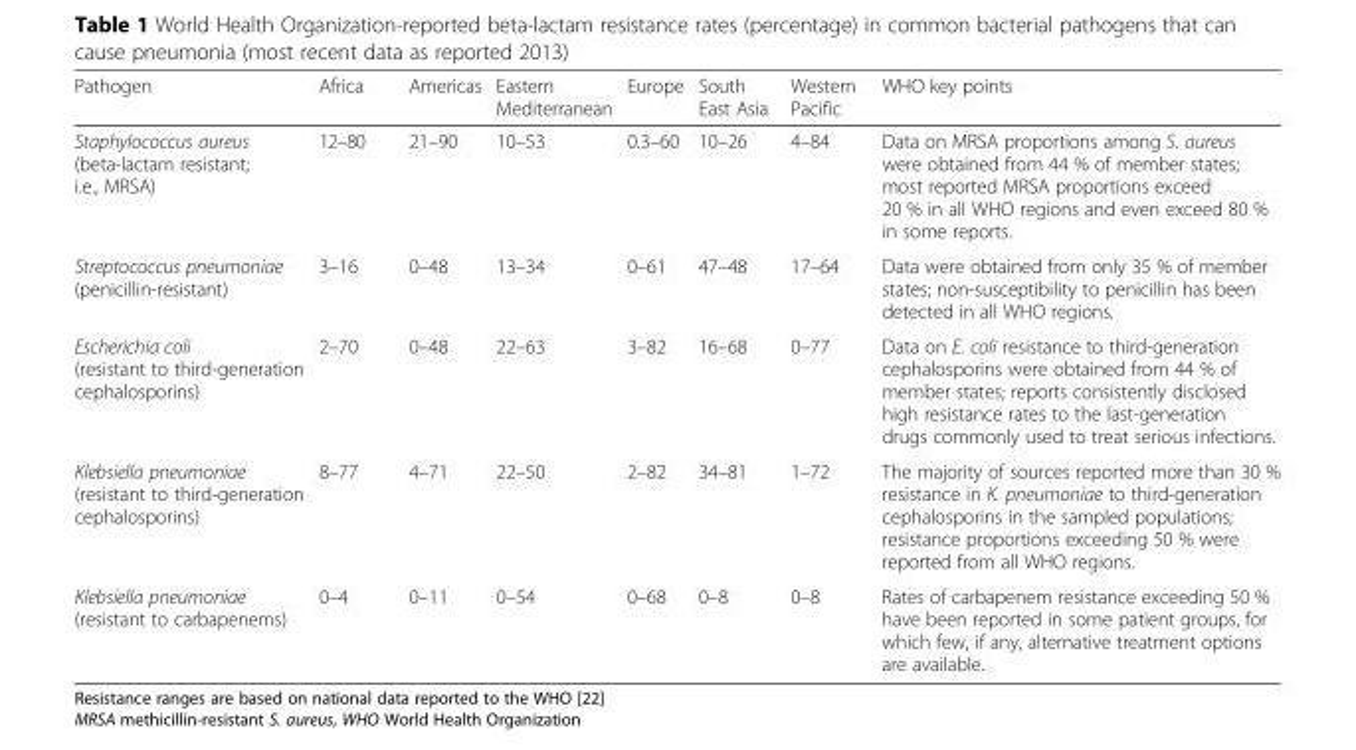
<table><thead><tr><td>Pathogen</td><td>Africa</td><td>Americas</td><td>Eastern Mediterranean</td><td>Europe</td><td>South East Asia</td><td>Western Pacific</td><td>WHO key points</td></tr></thead><tbody><tr><td>Staphylococcus aureus (beta-lactam resistant; i.e., MRSA)</td><td>12–80</td><td>21–90</td><td>10–53</td><td>0.3–60</td><td>10–26</td><td>4–84</td><td>Data on MRSA proportions among S. aureus were obtained from 44 % of member states; most reported MRSA proportions exceed 20 % in all WHO regions and even exceed 80 % in some reports.</td></tr><tr><td>Streptococcus pneumoniae (penicillin-resistant)</td><td>3–16</td><td>0–48</td><td>13–34</td><td>0–61</td><td>47–48</td><td>17–64</td><td>Data were obtained from only 35 % of member states; non-susceptibility to penicillin has been detected in all WHO regions.</td></tr><tr><td>Escherichia coli (resistant to third-generation cephalosporins)</td><td>2–70</td><td>0–48</td><td>22–63</td><td>3–82</td><td>16–68</td><td>0–77</td><td>Data on E. coli resistance to third-generation cephalosporins were obtained from 44 % of member states; reports consistently disclosed high resistance rates to the last-generation drugs commonly used to treat serious infections.</td></tr><tr><td>Klebsiella pneumoniae (resistant to third-generation cephalosporins)</td><td>8–77</td><td>4–71</td><td>22–50</td><td>2–82</td><td>34–81</td><td>1–72</td><td>The majority of sources reported more than 30 % resistance in K. pneumoniae to third-generation cephalosporins in the sampled populations; resistance proportions exceeding 50 % were reported from all WHO regions.</td></tr><tr><td>Klebsiella pneumoniae (resistant to carbapenems)</td><td>0–4</td><td>0–11</td><td>0–54</td><td>0–68</td><td>0–8</td><td>0–8</td><td>Rates of carbapenem resistance exceeding 50 % have been reported in some patient groups, for which few, if any, alternative treatment options are available.</td></tr></tbody></table>